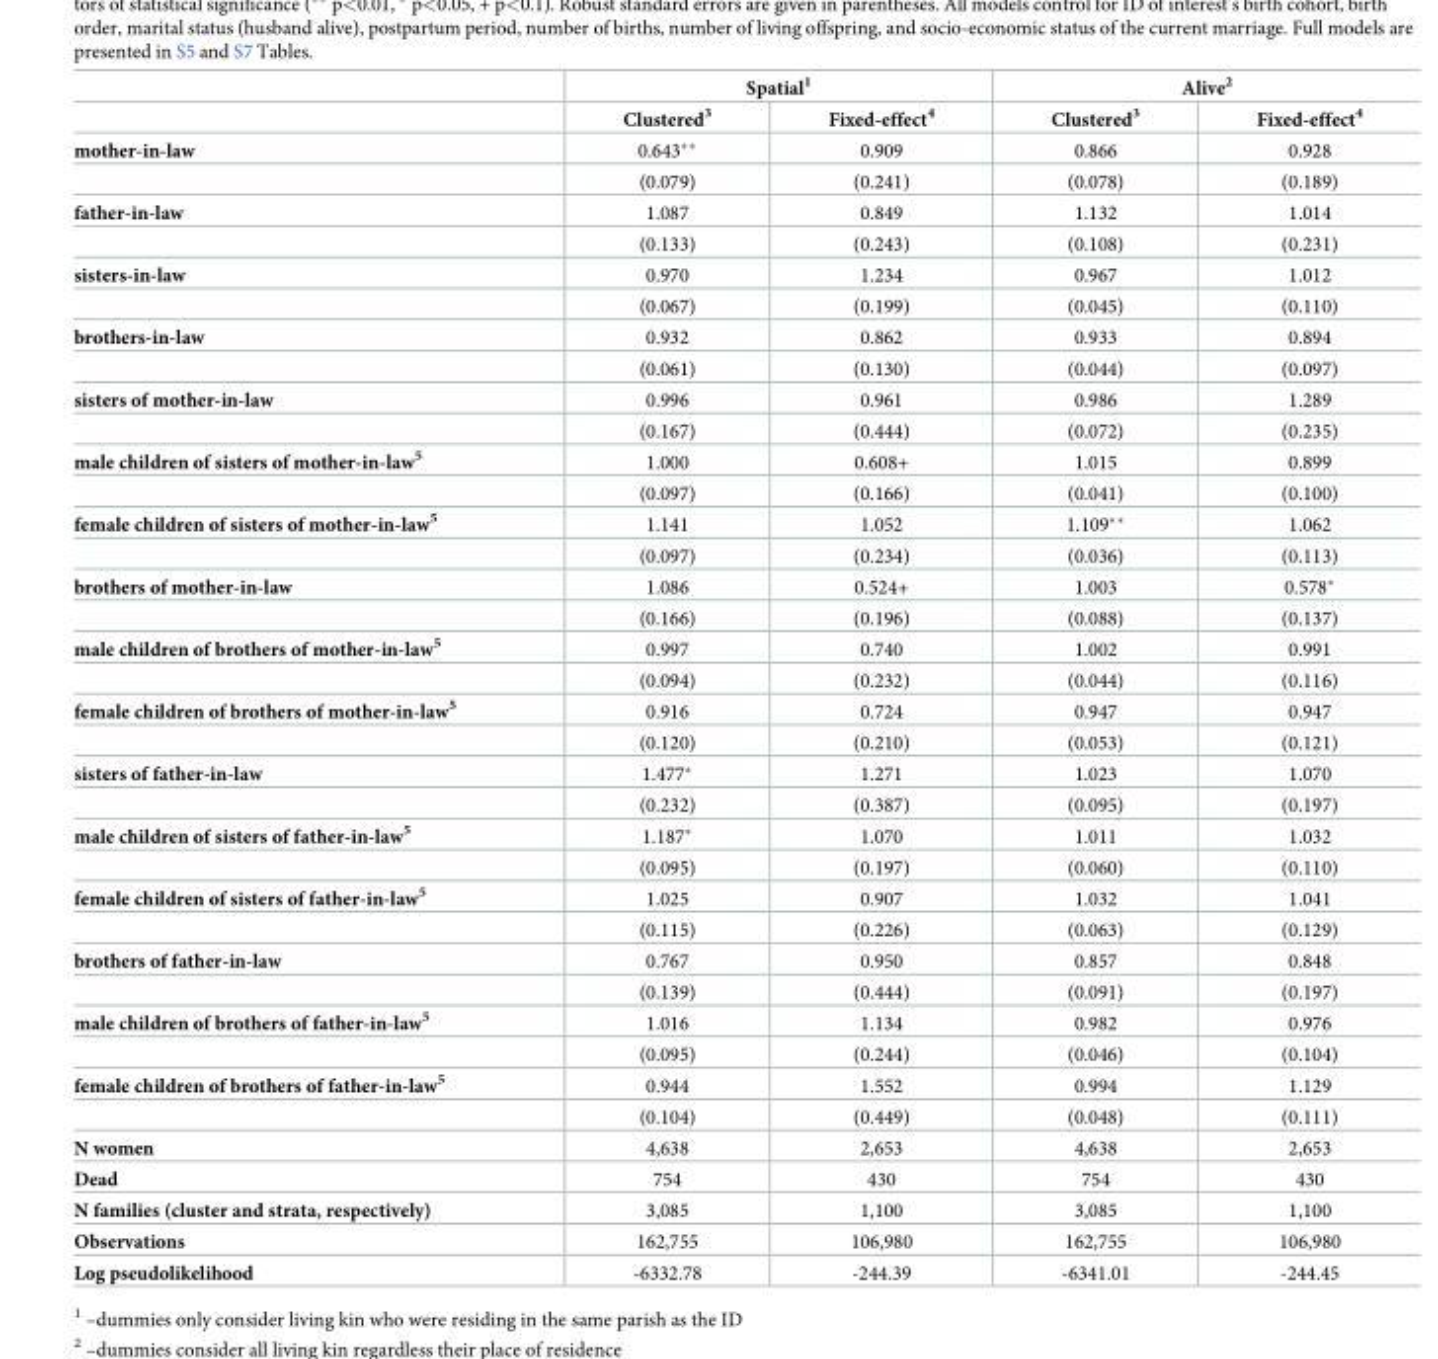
<table><thead><tr><td rowspan="2"></td><td colspan="2">Spatial<sup>1</sup></td><td colspan="2">Alive<sup>2</sup></td></tr><tr><td>Clustered<sup>3</sup></td><td>Fixed-effect<sup>4</sup></td><td>Clustered<sup>3</sup></td><td>Fixed-effect<sup>4</sup></td></tr></thead><tbody><tr><td rowspan="2">mother-in-law</td><td>0.643**</td><td>0.909</td><td>0.866</td><td>0.928</td></tr><tr><td>(0.079)</td><td>(0.241)</td><td>(0.078)</td><td>(0.189)</td></tr><tr><td rowspan="2">father-in-law</td><td>1.087</td><td>0.849</td><td>1.132</td><td>1.014</td></tr><tr><td>(0.133)</td><td>(0.243)</td><td>(0.108)</td><td>(0.231)</td></tr><tr><td rowspan="2">sisters-in-law</td><td>0.970</td><td>1.234</td><td>0.967</td><td>1.012</td></tr><tr><td>(0.067)</td><td>(0.199)</td><td>(0.045)</td><td>(0.110)</td></tr><tr><td rowspan="2">brothers-in-law</td><td>0.932</td><td>0.862</td><td>0.933</td><td>0.894</td></tr><tr><td>(0.061)</td><td>(0.130)</td><td>(0.044)</td><td>(0.097)</td></tr><tr><td rowspan="2">sisters of mother-in-law</td><td>0.996</td><td>0.961</td><td>0.986</td><td>1.289</td></tr><tr><td>(0.167)</td><td>(0.444)</td><td>(0.072)</td><td>(0.235)</td></tr><tr><td rowspan="2">male children of sisters of mother-in-law<sup>5</sup></td><td>1.000</td><td>0.608+</td><td>1.015</td><td>0.899</td></tr><tr><td>(0.097)</td><td>(0.166)</td><td>(0.041)</td><td>(0.100)</td></tr><tr><td rowspan="2">female children of sisters of mother-in-law<sup>5</sup></td><td>1.141</td><td>1.052</td><td>1.109**</td><td>1.062</td></tr><tr><td>(0.097)</td><td>(0.234)</td><td>(0.036)</td><td>(0.113)</td></tr><tr><td rowspan="2">brothers of mother-in-law</td><td>1.086</td><td>0.524+</td><td>1.003</td><td>0.578*</td></tr><tr><td>(0.166)</td><td>(0.196)</td><td>(0.088)</td><td>(0.137)</td></tr><tr><td rowspan="2">male children of brothers of mother-in-law<sup>5</sup></td><td>0.997</td><td>0.740</td><td>1.002</td><td>0.991</td></tr><tr><td>(0.094)</td><td>(0.232)</td><td>(0.044)</td><td>(0.116)</td></tr><tr><td rowspan="2">female children of brothers of mother-in-law<sup>5</sup></td><td>0.916</td><td>0.724</td><td>0.947</td><td>0.947</td></tr><tr><td>(0.120)</td><td>(0.210)</td><td>(0.053)</td><td>(0.121)</td></tr><tr><td rowspan="2">sisters of father-in-law</td><td>1.477*</td><td>1.271</td><td>1.023</td><td>1.070</td></tr><tr><td>(0.232)</td><td>(0.387)</td><td>(0.095)</td><td>(0.197)</td></tr><tr><td rowspan="2">male children of sisters of father-in-law<sup>5</sup></td><td>1.187*</td><td>1.070</td><td>1.011</td><td>1.032</td></tr><tr><td>(0.095)</td><td>(0.197)</td><td>(0.060)</td><td>(0.110)</td></tr><tr><td rowspan="2">female children of sisters of father-in-law<sup>5</sup></td><td>1.025</td><td>0.907</td><td>1.032</td><td>1.041</td></tr><tr><td>(0.115)</td><td>(0.226)</td><td>(0.063)</td><td>(0.129)</td></tr><tr><td rowspan="2">brothers of father-in-law</td><td>0.767</td><td>0.950</td><td>0.857</td><td>0.848</td></tr><tr><td>(0.139)</td><td>(0.444)</td><td>(0.091)</td><td>(0.197)</td></tr><tr><td rowspan="2">male children of brothers of father-in-law<sup>5</sup></td><td>1.016</td><td>1.134</td><td>0.982</td><td>0.976</td></tr><tr><td>(0.095)</td><td>(0.244)</td><td>(0.046)</td><td>(0.104)</td></tr><tr><td rowspan="2">female children of brothers of father-in-law<sup>5</sup></td><td>0.944</td><td>1.552</td><td>0.994</td><td>1.129</td></tr><tr><td>(0.104)</td><td>(0.449)</td><td>(0.048)</td><td>(0.111)</td></tr><tr><td>N women</td><td>4,638</td><td>2,653</td><td>4,638</td><td>2,653</td></tr><tr><td>Dead</td><td>754</td><td>430</td><td>754</td><td>430</td></tr><tr><td>N families (cluster and strata, respectively)</td><td>3,085</td><td>1,100</td><td>3,085</td><td>1,100</td></tr><tr><td>Observations</td><td>162,755</td><td>106,980</td><td>162,755</td><td>106,980</td></tr><tr><td>Log pseudolikelihood</td><td>-6332.78</td><td>-244.39</td><td>-6341.01</td><td>-244.45</td></tr></tbody></table>